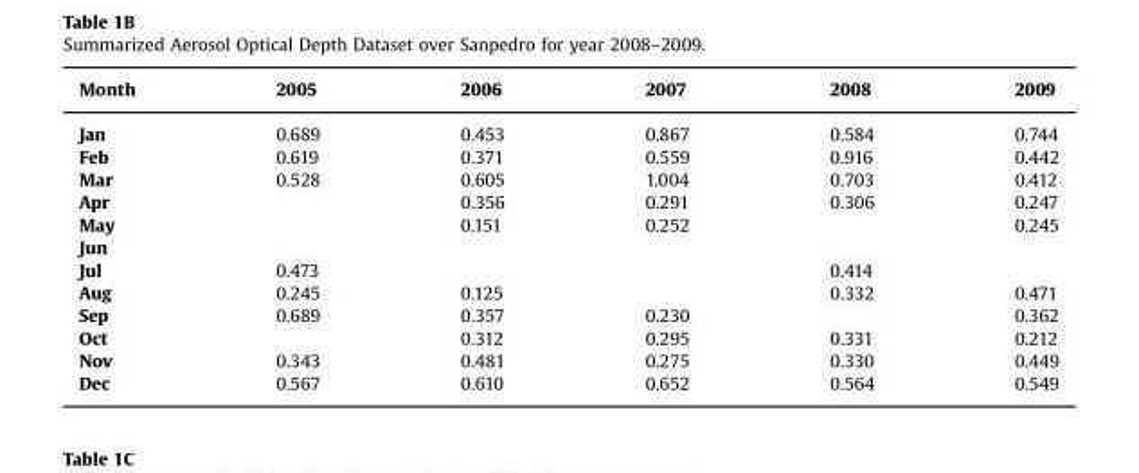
<table><thead><tr><td>Month</td><td>2005</td><td>2006</td><td>2007</td><td>2008</td><td>2009</td></tr></thead><tbody><tr><td>Jan</td><td>0.689</td><td>0.453</td><td>0.867</td><td>0.584</td><td>0.744</td></tr><tr><td>Feb</td><td>0.619</td><td>0.371</td><td>0.559</td><td>0.916</td><td>0.442</td></tr><tr><td>Mar</td><td>0.528</td><td>0.605</td><td>1.004</td><td>0.703</td><td>0.412</td></tr><tr><td>Apr</td><td></td><td>0.356</td><td>0.291</td><td>0.306</td><td>0.247</td></tr><tr><td>May</td><td></td><td>0.151</td><td>0.252</td><td></td><td>0.245</td></tr><tr><td colspan="6">Jun</td></tr><tr><td>Jul</td><td>0.473</td><td></td><td></td><td>0.414</td><td></td></tr><tr><td>Aug</td><td>0.245</td><td>0.125</td><td></td><td>0.332</td><td>0.471</td></tr><tr><td>Sep</td><td>0.689</td><td>0.357</td><td>0.230</td><td></td><td>0.362</td></tr><tr><td>Oct</td><td></td><td>0.312</td><td>0.295</td><td>0.331</td><td>0.212</td></tr><tr><td>Nov</td><td>0.343</td><td>0.481</td><td>0.275</td><td>0.330</td><td>0.449</td></tr><tr><td>Dec</td><td>0.567</td><td>0.610</td><td>0.652</td><td>0.564</td><td>0.549</td></tr></tbody></table>